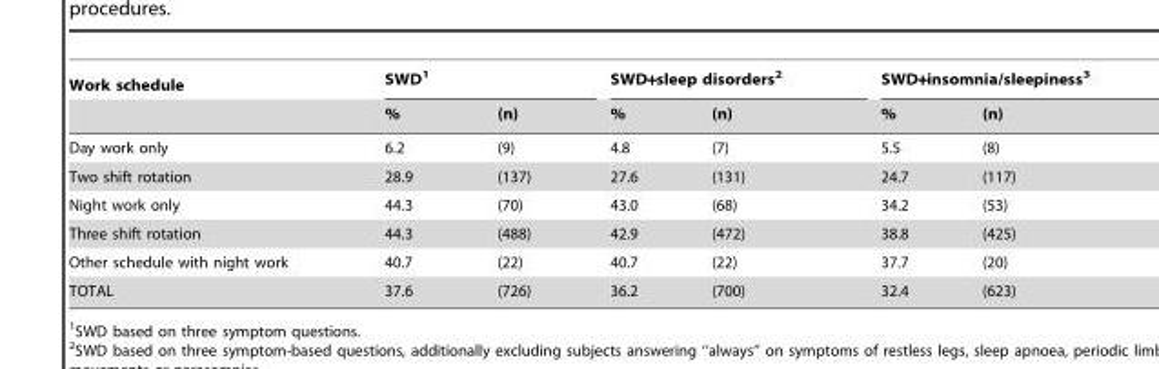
<table><thead><tr><td rowspan="2">Work schedule</td><td colspan="2">SWD<sup>1</sup></td><td colspan="2">SWD+sleep disorders<sup>2</sup></td><td colspan="2">SWD+insomnia/sleepiness<sup>3</sup></td></tr><tr><td>%</td><td>(n)</td><td>%</td><td>(n)</td><td>%</td><td>(n)</td></tr></thead><tbody><tr><td>Day work only</td><td>6.2</td><td>(9)</td><td>4.8</td><td>(7)</td><td>5.5</td><td>(8)</td></tr><tr><td>Two shift rotation</td><td>28.9</td><td>(137)</td><td>27.6</td><td>(131)</td><td>24.7</td><td>(117)</td></tr><tr><td>Night work only</td><td>44.3</td><td>(70)</td><td>43.0</td><td>(68)</td><td>34.2</td><td>(53)</td></tr><tr><td>Three shift rotation</td><td>44.3</td><td>(488)</td><td>42.9</td><td>(472)</td><td>38.8</td><td>(425)</td></tr><tr><td>Other schedule with night work</td><td>40.7</td><td>(22)</td><td>40.7</td><td>(22)</td><td>37.7</td><td>(20)</td></tr><tr><td>TOTAL</td><td>37.6</td><td>(726)</td><td>36.2</td><td>(700)</td><td>32.4</td><td>(623)</td></tr></tbody></table>